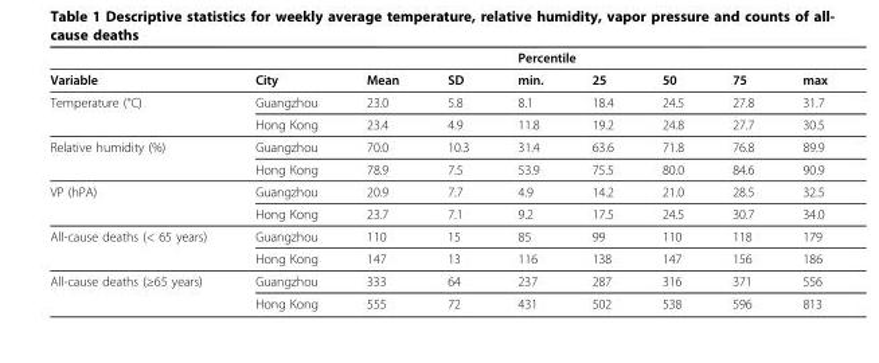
<table><thead><tr><td rowspan="2">Variable</td><td rowspan="2">City</td><td rowspan="2">Mean</td><td rowspan="2">SD</td><td colspan="5">Percentile</td></tr><tr><td>min.</td><td>25</td><td>50</td><td>75</td><td>max</td></tr></thead><tbody><tr><td rowspan="2">Temperature (°C)</td><td>Guangzhou</td><td>23.0</td><td>5.8</td><td>8.1</td><td>18.4</td><td>24.5</td><td>27.8</td><td>31.7</td></tr><tr><td>Hong Kong</td><td>23.4</td><td>4.9</td><td>11.8</td><td>19.2</td><td>24.8</td><td>27.7</td><td>30.5</td></tr><tr><td rowspan="2">Relative humidity (%)</td><td>Guangzhou</td><td>70.0</td><td>10.3</td><td>31.4</td><td>63.6</td><td>71.8</td><td>76.8</td><td>89.9</td></tr><tr><td>Hong Kong</td><td>78.9</td><td>7.5</td><td>53.9</td><td>75.5</td><td>80.0</td><td>84.6</td><td>90.9</td></tr><tr><td rowspan="2">VP (hPA)</td><td>Guangzhou</td><td>20.9</td><td>7.7</td><td>4.9</td><td>14.2</td><td>21.0</td><td>28.5</td><td>32.5</td></tr><tr><td>Hong Kong</td><td>23.7</td><td>7.1</td><td>9.2</td><td>17.5</td><td>24.5</td><td>30.7</td><td>34.0</td></tr><tr><td rowspan="2">All-cause deaths (&lt; 65 years)</td><td>Guangzhou</td><td>110</td><td>15</td><td>85</td><td>99</td><td>110</td><td>118</td><td>179</td></tr><tr><td>Hong Kong</td><td>147</td><td>13</td><td>116</td><td>138</td><td>147</td><td>156</td><td>186</td></tr><tr><td rowspan="2">All-cause deaths (≥65 years)</td><td>Guangzhou</td><td>333</td><td>64</td><td>237</td><td>287</td><td>316</td><td>371</td><td>556</td></tr><tr><td>Hong Kong</td><td>555</td><td>72</td><td>431</td><td>502</td><td>538</td><td>596</td><td>813</td></tr></tbody></table>